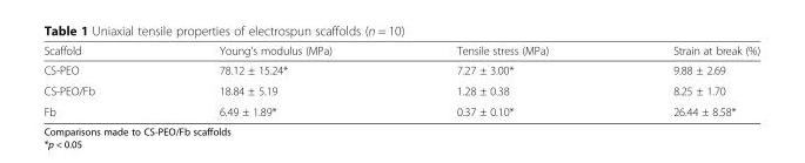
<table><thead><tr><td>Scaffold</td><td>Young’s modulus (MPa)</td><td>Tensile stress (MPa)</td><td>Strain at break (%)</td></tr></thead><tbody><tr><td>CS-PEO</td><td>78.12 ± 15.24*</td><td>7.27 ± 3.00*</td><td>9.88 ± 2.69</td></tr><tr><td>CS-PEO/Fb</td><td>18.84 ± 5.19</td><td>1.28 ± 0.38</td><td>8.25 ± 1.70</td></tr><tr><td>Fb</td><td>6.49 ± 1.89*</td><td>0.37 ± 0.10*</td><td>26.44 ± 8.58*</td></tr></tbody></table>